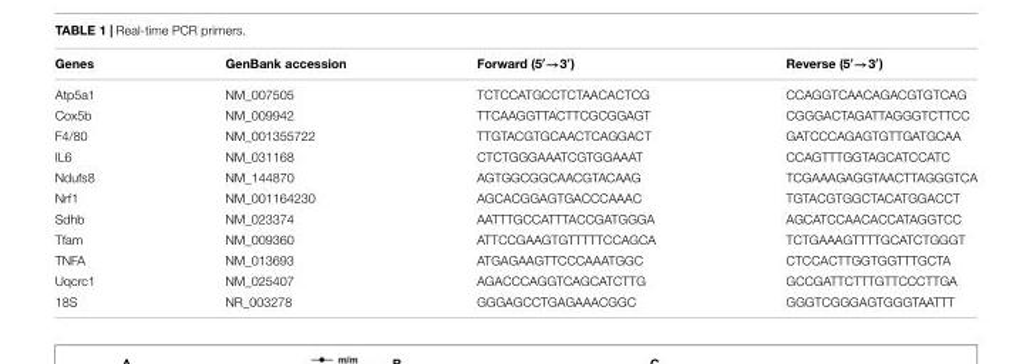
<table><thead><tr><td>Genes</td><td>GenBank accession</td><td>Forward (5′→3′)</td><td>Reverse (5′→3′)</td></tr></thead><tbody><tr><td>Atp5a1</td><td>NM_007505</td><td>TCTCCATGCCTCTAACACTCG</td><td>CCAGGTCAACAGACGTGTCAG</td></tr><tr><td>Cox5b</td><td>NM_009942</td><td>TTCAAGGTTACTTCGCGGAGT</td><td>CGGGACTAGATTAGGGTCTTCC</td></tr><tr><td>F4/80</td><td>NM_001355722</td><td>TTGTACGTGCAACTCAGGACT</td><td>GATCCCAGAGTGTTGATGCAA</td></tr><tr><td>IL6</td><td>NM_031168</td><td>CTCTGGGAAATCGTGGAAAT</td><td>CCAGTTTGGTAGCATCCATC</td></tr><tr><td>Ndufs8</td><td>NM_144870</td><td>AGTGGCGGCAACGTACAAG</td><td>TCGAAAGAGGTAACTTAGGGTCA</td></tr><tr><td>Nrf1</td><td>NM_001164230</td><td>AGCACGGAGTGACCCAAAC</td><td>TGTACGTGGCTACATGGACCT</td></tr><tr><td>Sdhb</td><td>NM_023374</td><td>AATTTGCCATTTACCGATGGGA</td><td>AGCATCCAACACCATAGGTCC</td></tr><tr><td>Tfam</td><td>NM_009360</td><td>ATTCCGAAGTGTTTTTCCAGCA</td><td>TCTGAAAGTTTTGCATCTGGGT</td></tr><tr><td>TNFA</td><td>NM_013693</td><td>ATGAGAAGTTCCCAAATGGC</td><td>CTCCACTTGGTGGTTTGCTA</td></tr><tr><td>Uqcrc1</td><td>NM_025407</td><td>AGACCCAGGTCAGCATCTTG</td><td>GCCGATTCTTTGTTCCCTTGA</td></tr><tr><td>18S</td><td>NR_003278</td><td>GGGAGCCTGAGAAACGGC</td><td>GGGTCGGGAGTGGGTAATTT</td></tr></tbody></table>